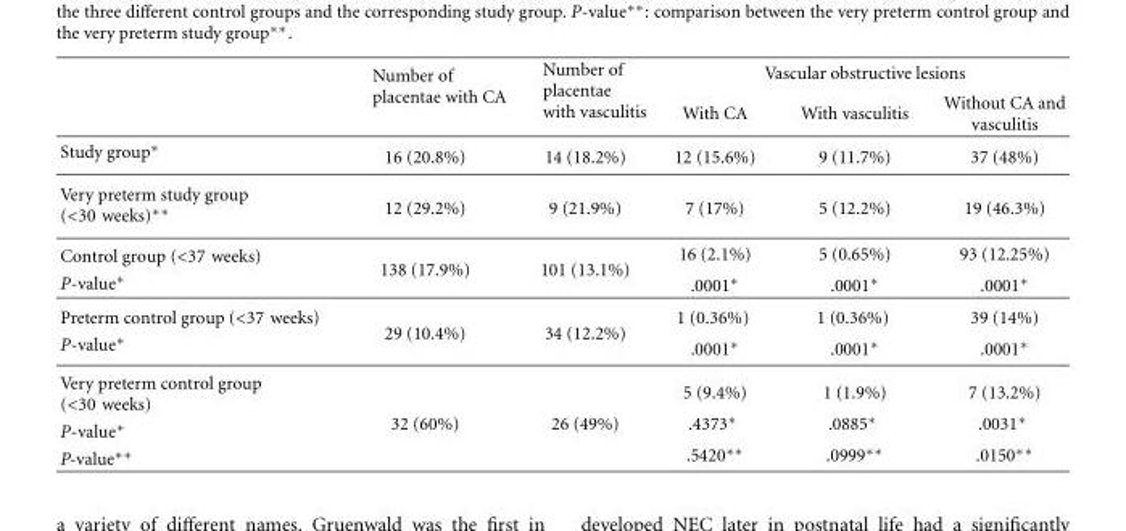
<table><thead><tr><td rowspan="2"></td><td rowspan="2">Number of placentae with CA</td><td rowspan="2">Number of placentae with vasculitis</td><td colspan="3">Vascular obstructive lesions</td></tr><tr><td>With CA</td><td>With vasculitis</td><td>Without CA and vasculitis</td></tr></thead><tbody><tr><td>Study group∗</td><td>16 (20.8%)</td><td>14 (18.2%)</td><td>12 (15.6%)</td><td>9 (11.7%)</td><td>37 (48%)</td></tr><tr><td>Very preterm study group (&lt;30 weeks)∗∗</td><td>12 (29.2%)</td><td>9 (21.9%)</td><td>7 (17%)</td><td>5 (12.2%)</td><td>19 (46.3%)</td></tr><tr><td>Control group (&lt;37 weeks) P-value∗</td><td>138 (17.9%)</td><td>101 (13.1%)</td><td>16 (2.1%) .0001∗</td><td>5 (0.65%) .0001∗</td><td>93 (12.25%) .0001∗</td></tr><tr><td>Preterm control group (&lt;37 weeks) P-value∗</td><td>29 (10.4%)</td><td>34 (12.2%)</td><td>1 (0.36%) .0001∗</td><td>1 (0.36%) .0001∗</td><td>39 (14%) .0001∗</td></tr><tr><td>Very preterm control group (&lt;30 weeks) P-value∗ P-value∗∗</td><td>32 (60%)</td><td>26 (49%)</td><td>5 (9.4%) .4373∗ .5420∗∗</td><td>1 (1.9%) .0885∗ .0999∗∗</td><td>7 (13.2%) .0031∗ .0150∗∗</td></tr></tbody></table>